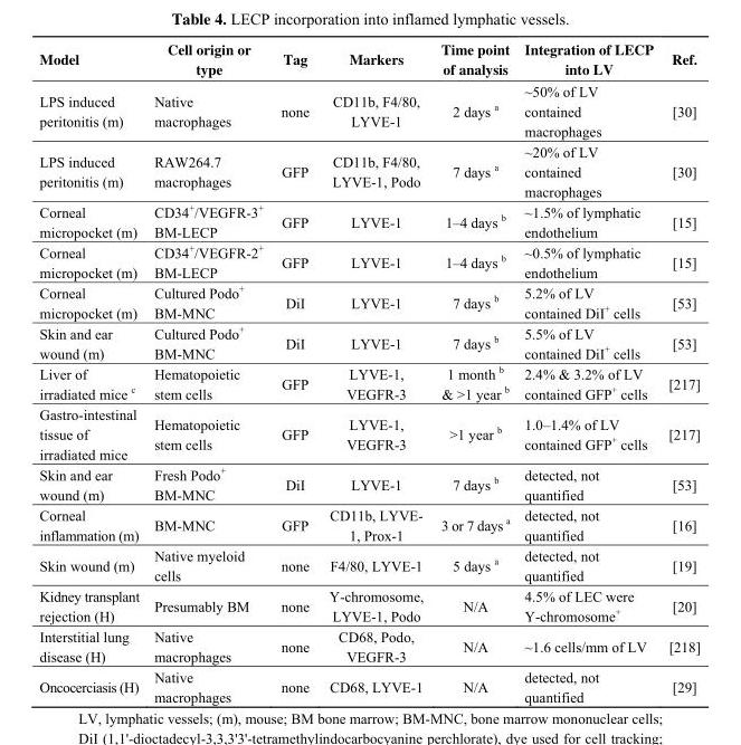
<table><thead><tr><td>Model</td><td>Cell origin or type</td><td>Tag</td><td>Markers</td><td>Time point of analysis</td><td>Integration of LECP into LV</td><td>Ref.</td></tr></thead><tbody><tr><td>LPS induced peritonitis (m)</td><td>Native macrophages</td><td>none</td><td>CD11b, F4/80, LYVE-1</td><td>2 days <sup>a</sup></td><td>~50% of LV contained macrophages</td><td>[30]</td></tr><tr><td>LPS induced peritonitis (m)</td><td>RAW264.7 macrophages</td><td>GFP</td><td>CD11b, F4/80, LYVE-1, Podo</td><td>7 days <sup>a</sup></td><td>~20% of LV contained macrophages</td><td>[30]</td></tr><tr><td>Corneal micropocket (m)</td><td>CD34<sup>+</sup>/VEGFR-3<sup>+</sup> BM-LECP</td><td>GFP</td><td>LYVE-1</td><td>1–4 days <sup>b</sup></td><td>~1.5% of lymphatic endothelium</td><td>[15]</td></tr><tr><td>Corneal micropocket (m)</td><td>CD34<sup>+</sup>/VEGFR-2<sup>+</sup> BM-LECP</td><td>GFP</td><td>LYVE-1</td><td>1–4 days <sup>b</sup></td><td>~0.5% of lymphatic endothelium</td><td>[15]</td></tr><tr><td>Corneal micropocket (m)</td><td>Cultured Podo<sup>+</sup> BM-MNC</td><td>DiI</td><td>LYVE-1</td><td>7 days <sup>b</sup></td><td>5.2% of LV contained DiI<sup>+</sup> cells</td><td>[53]</td></tr><tr><td>Skin and ear wound (m)</td><td>Cultured Podo<sup>+</sup> BM-MNC</td><td>DiI</td><td>LYVE-1</td><td>7 days <sup>b</sup></td><td>5.5% of LV contained DiI<sup>+</sup> cells</td><td>[53]</td></tr><tr><td>Liver of irradiated mice <sup>c</sup></td><td>Hematopoietic stem cells</td><td>GFP</td><td>LYVE-1, VEGFR-3</td><td>1 month <sup>b</sup> &amp; &gt;1 year <sup>b</sup></td><td>2.4% &amp; 3.2% of LV contained GFP<sup>+</sup> cells</td><td>[217]</td></tr><tr><td>Gastro-intestinal tissue of irradiated mice</td><td>Hematopoietic stem cells</td><td>GFP</td><td>LYVE-1, VEGFR-3</td><td>&gt;1 year <sup>b</sup></td><td>1.0–1.4% of LV contained GFP<sup>+</sup> cells</td><td>[217]</td></tr><tr><td>Skin and ear wound (m)</td><td>Fresh Podo<sup>+</sup> BM-MNC</td><td>DiI</td><td>LYVE-1</td><td>7 days <sup>b</sup></td><td>detected, not quantified</td><td>[53]</td></tr><tr><td>Corneal inflammation (m)</td><td>BM-MNC</td><td>GFP</td><td>CD11b, LYVE- 1, Prox-1</td><td>3 or 7 days <sup>a</sup></td><td>detected, not quantified</td><td>[16]</td></tr><tr><td>Skin wound (m)</td><td>Native myeloid cells</td><td>none</td><td>F4/80, LYVE-1</td><td>5 days <sup>a</sup></td><td>detected, not quantified</td><td>[19]</td></tr><tr><td>Kidney transplant rejection (H)</td><td>Presumably BM</td><td>none</td><td>Y-chromosome, LYVE-1, Podo</td><td>N/A</td><td>4.5% of LEC were Y-chromosome<sup>+</sup></td><td>[20]</td></tr><tr><td>Interstitial lung disease (H)</td><td>Native macrophages</td><td>none</td><td>CD68, Podo, VEGFR-3</td><td>N/A</td><td>~1.6 cells/mm of LV</td><td>[218]</td></tr><tr><td>Oncocerciasis (H)</td><td>Native macrophages</td><td>none</td><td>CD68, LYVE-1</td><td>N/A</td><td>detected, not quantified</td><td>[29]</td></tr></tbody></table>